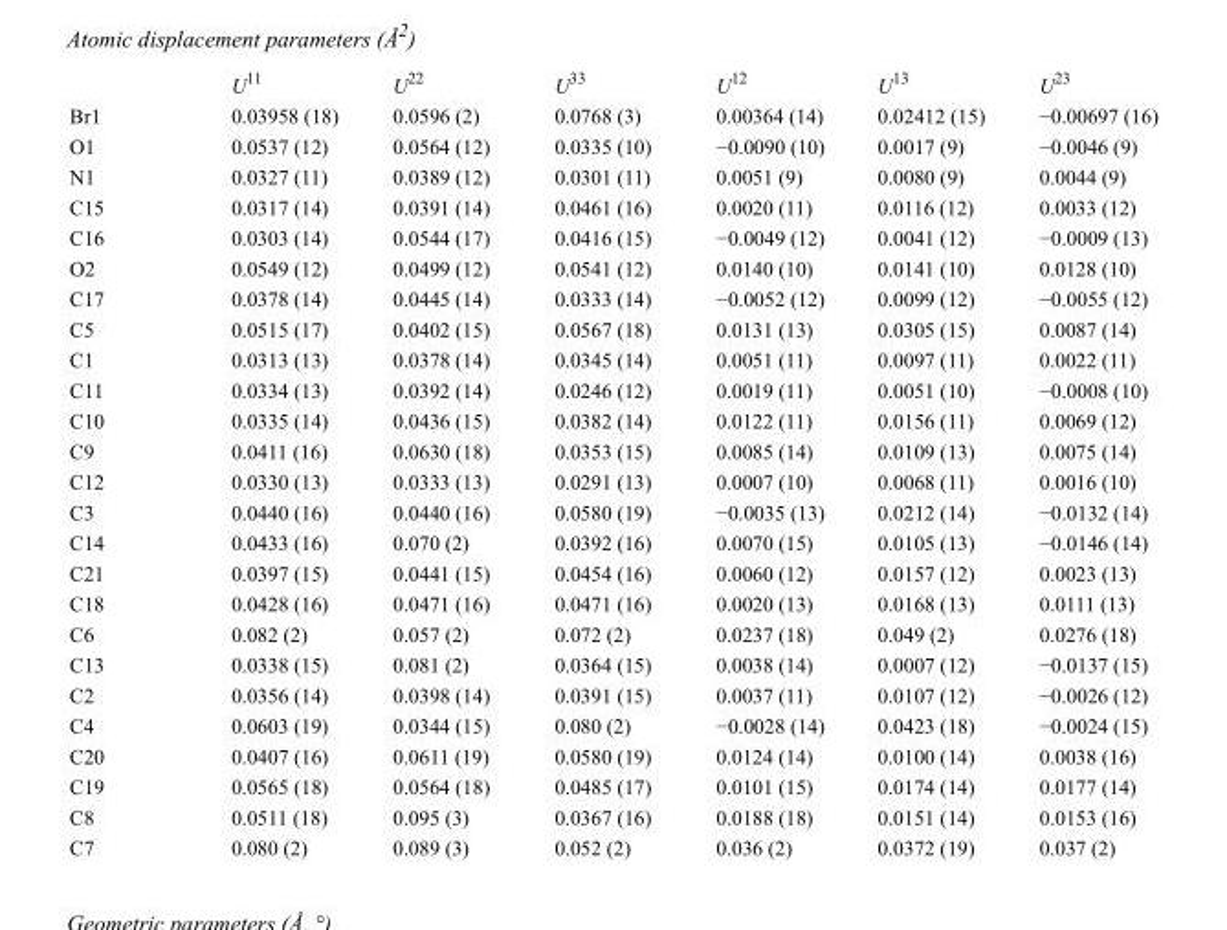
<table><thead><tr><td></td><td>U<sup>11</sup></td><td>U<sup>22</sup></td><td>U<sup>33</sup></td><td>U<sup>12</sup></td><td>U<sup>13</sup></td><td>U<sup>23</sup></td></tr></thead><tbody><tr><td>Br1</td><td>0.03958 (18)</td><td>0.0596 (2)</td><td>0.0768 (3)</td><td>0.00364 (14)</td><td>0.02412 (15)</td><td>−0.00697 (16)</td></tr><tr><td>O1</td><td>0.0537 (12)</td><td>0.0564 (12)</td><td>0.0335 (10)</td><td>−0.0090 (10)</td><td>0.0017 (9)</td><td>−0.0046 (9)</td></tr><tr><td>N1</td><td>0.0327 (11)</td><td>0.0389 (12)</td><td>0.0301 (11)</td><td>0.0051 (9)</td><td>0.0080 (9)</td><td>0.0044 (9)</td></tr><tr><td>C15</td><td>0.0317 (14)</td><td>0.0391 (14)</td><td>0.0461 (16)</td><td>0.0020 (11)</td><td>0.0116 (12)</td><td>0.0033 (12)</td></tr><tr><td>C16</td><td>0.0303 (14)</td><td>0.0544 (17)</td><td>0.0416 (15)</td><td>−0.0049 (12)</td><td>0.0041 (12)</td><td>−0.0009 (13)</td></tr><tr><td>O2</td><td>0.0549 (12)</td><td>0.0499 (12)</td><td>0.0541 (12)</td><td>0.0140 (10)</td><td>0.0141 (10)</td><td>0.0128 (10)</td></tr><tr><td>C17</td><td>0.0378 (14)</td><td>0.0445 (14)</td><td>0.0333 (14)</td><td>−0.0052 (12)</td><td>0.0099 (12)</td><td>−0.0055 (12)</td></tr><tr><td>C5</td><td>0.0515 (17)</td><td>0.0402 (15)</td><td>0.0567 (18)</td><td>0.0131 (13)</td><td>0.0305 (15)</td><td>0.0087 (14)</td></tr><tr><td>C1</td><td>0.0313 (13)</td><td>0.0378 (14)</td><td>0.0345 (14)</td><td>0.0051 (11)</td><td>0.0097 (11)</td><td>0.0022 (11)</td></tr><tr><td>C11</td><td>0.0334 (13)</td><td>0.0392 (14)</td><td>0.0246 (12)</td><td>0.0019 (11)</td><td>0.0051 (10)</td><td>−0.0008 (10)</td></tr><tr><td>C10</td><td>0.0335 (14)</td><td>0.0436 (15)</td><td>0.0382 (14)</td><td>0.0122 (11)</td><td>0.0156 (11)</td><td>0.0069 (12)</td></tr><tr><td>C9</td><td>0.0411 (16)</td><td>0.0630 (18)</td><td>0.0353 (15)</td><td>0.0085 (14)</td><td>0.0109 (13)</td><td>0.0075 (14)</td></tr><tr><td>C12</td><td>0.0330 (13)</td><td>0.0333 (13)</td><td>0.0291 (13)</td><td>0.0007 (10)</td><td>0.0068 (11)</td><td>0.0016 (10)</td></tr><tr><td>C3</td><td>0.0440 (16)</td><td>0.0440 (16)</td><td>0.0580 (19)</td><td>−0.0035 (13)</td><td>0.0212 (14)</td><td>−0.0132 (14)</td></tr><tr><td>C14</td><td>0.0433 (16)</td><td>0.070 (2)</td><td>0.0392 (16)</td><td>0.0070 (15)</td><td>0.0105 (13)</td><td>−0.0146 (14)</td></tr><tr><td>C21</td><td>0.0397 (15)</td><td>0.0441 (15)</td><td>0.0454 (16)</td><td>0.0060 (12)</td><td>0.0157 (12)</td><td>0.0023 (13)</td></tr><tr><td>C18</td><td>0.0428 (16)</td><td>0.0471 (16)</td><td>0.0471 (16)</td><td>0.0020 (13)</td><td>0.0168 (13)</td><td>0.0111 (13)</td></tr><tr><td>C6</td><td>0.082 (2)</td><td>0.057 (2)</td><td>0.072 (2)</td><td>0.0237 (18)</td><td>0.049 (2)</td><td>0.0276 (18)</td></tr><tr><td>C13</td><td>0.0338 (15)</td><td>0.081 (2)</td><td>0.0364 (15)</td><td>0.0038 (14)</td><td>0.0007 (12)</td><td>−0.0137 (15)</td></tr><tr><td>C2</td><td>0.0356 (14)</td><td>0.0398 (14)</td><td>0.0391 (15)</td><td>0.0037 (11)</td><td>0.0107 (12)</td><td>−0.0026 (12)</td></tr><tr><td>C4</td><td>0.0603 (19)</td><td>0.0344 (15)</td><td>0.080 (2)</td><td>−0.0028 (14)</td><td>0.0423 (18)</td><td>−0.0024 (15)</td></tr><tr><td>C20</td><td>0.0407 (16)</td><td>0.0611 (19)</td><td>0.0580 (19)</td><td>0.0124 (14)</td><td>0.0100 (14)</td><td>0.0038 (16)</td></tr><tr><td>C19</td><td>0.0565 (18)</td><td>0.0564 (18)</td><td>0.0485 (17)</td><td>0.0101 (15)</td><td>0.0174 (14)</td><td>0.0177 (14)</td></tr><tr><td>C8</td><td>0.0511 (18)</td><td>0.095 (3)</td><td>0.0367 (16)</td><td>0.0188 (18)</td><td>0.0151 (14)</td><td>0.0153 (16)</td></tr><tr><td>C7</td><td>0.080 (2)</td><td>0.089 (3)</td><td>0.052 (2)</td><td>0.036 (2)</td><td>0.0372 (19)</td><td>0.037 (2)</td></tr></tbody></table>